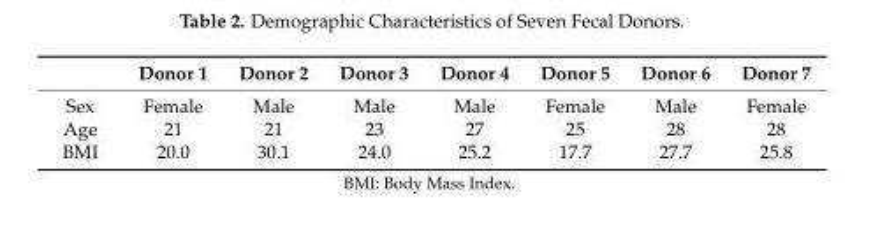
<table><thead><tr><td></td><td>Donor 1</td><td>Donor 2</td><td>Donor 3</td><td>Donor 4</td><td>Donor 5</td><td>Donor 6</td><td>Donor 7</td></tr></thead><tbody><tr><td>Sex</td><td>Female</td><td>Male</td><td>Male</td><td>Male</td><td>Female</td><td>Male</td><td>Female</td></tr><tr><td>Age</td><td>21</td><td>21</td><td>23</td><td>27</td><td>25</td><td>28</td><td>28</td></tr><tr><td>BMI</td><td>20.0</td><td>30.1</td><td>24.0</td><td>25.2</td><td>17.7</td><td>27.7</td><td>25.8</td></tr></tbody></table>